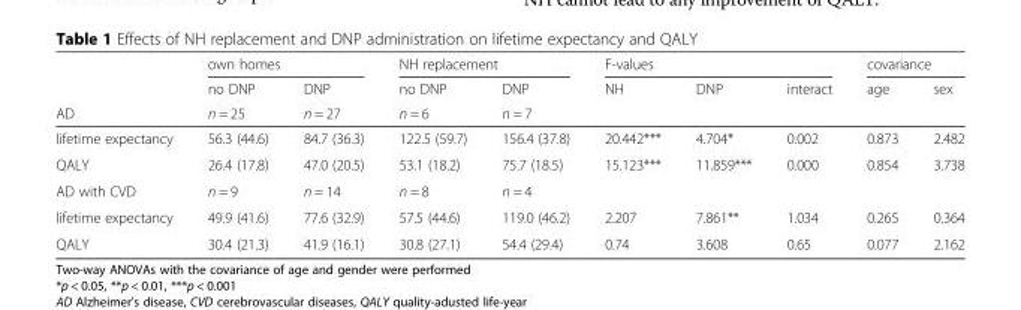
<table><thead><tr><td rowspan="3">AD</td><td colspan="2">own homes</td><td colspan="2">NH replacement</td><td colspan="3">F-values</td><td colspan="2">covariance</td></tr><tr><td rowspan="2">no DNP n = 25</td><td rowspan="2">DNP n = 27</td><td rowspan="2">no DNP n = 6</td><td rowspan="2">DNP n = 7</td><td rowspan="2">NH</td><td rowspan="2">DNP</td><td rowspan="2">interact</td><td rowspan="2">age</td><td rowspan="2">sex</td></tr><tr></tr></thead><tbody><tr><td>lifetime expectancy</td><td>56.3 (44.6)</td><td>84.7 (36.3)</td><td>122.5 (59.7)</td><td>156.4 (37.8)</td><td>20.442***</td><td>4.704*</td><td>0.002</td><td>0.873</td><td>2.482</td></tr><tr><td>QALY</td><td>26.4 (17.8)</td><td>47.0 (20.5)</td><td>53.1 (18.2)</td><td>75.7 (18.5)</td><td>15.123***</td><td>11.859***</td><td>0.000</td><td>0.854</td><td>3.738</td></tr><tr><td>AD with CVD</td><td>n = 9</td><td>n = 14</td><td>n = 8</td><td>n = 4</td><td></td><td></td><td></td><td></td><td></td></tr><tr><td>lifetime expectancy</td><td>49.9 (41.6)</td><td>77.6 (32.9)</td><td>57.5 (44.6)</td><td>119.0 (46.2)</td><td>2.207</td><td>7.861**</td><td>1.034</td><td>0.265</td><td>0.364</td></tr><tr><td>QALY</td><td>30.4 (21.3)</td><td>41.9 (16.1)</td><td>30.8 (27.1)</td><td>54.4 (29.4)</td><td>0.74</td><td>3.608</td><td>0.65</td><td>0.077</td><td>2.162</td></tr></tbody></table>